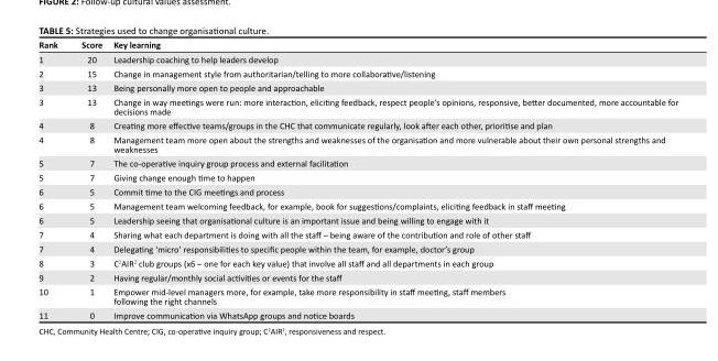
<table><thead><tr><td>Rank</td><td>Score</td><td>Key learning</td></tr></thead><tbody><tr><td>1</td><td>20</td><td>Leadership coaching to help leaders develop</td></tr><tr><td>2</td><td>15</td><td>Change in management style from authoritarian/telling to more collaborative/listening</td></tr><tr><td>3</td><td>13</td><td>Being personally more open to people and approachable</td></tr><tr><td>3</td><td>13</td><td>Change in way meetings were run: more interaction, eliciting feedback, respect people’s opinions, responsive, better documented, more accountable for decisions made</td></tr><tr><td>4</td><td>8</td><td>Creating more effective teams/groups in the CHC that communicate regularly, look after each other, prioritise and plan</td></tr><tr><td>4</td><td>8</td><td>Management team more open about the strengths and weaknesses of the organisation and more vulnerable about their own personal strengths and weaknesses</td></tr><tr><td>5</td><td>7</td><td>The co-operative inquiry group process and external facilitation</td></tr><tr><td>5</td><td>7</td><td>Giving change enough time to happen</td></tr><tr><td>6</td><td>5</td><td>Commit time to the CIG meetings and process</td></tr><tr><td>6</td><td>5</td><td>Management team welcoming feedback, for example, book for suggestions/complaints, eliciting feedback in staff meeting</td></tr><tr><td>6</td><td>5</td><td>Leadership seeing that organisational culture is an important issue and being willing to engage with it</td></tr><tr><td>7</td><td>4</td><td>Sharing what each department is doing with all the staff – being aware of the contribution and role of other staff</td></tr><tr><td>7</td><td>4</td><td>Delegating ‘micro’ responsibilities to specific people within the team, for example, doctor’s group</td></tr><tr><td>8</td><td>3</td><td>C<sup>2</sup>AIR<sup>2</sup> club groups (x6 – one for each key value) that involve all staff and all departments in each group</td></tr><tr><td>9</td><td>2</td><td>Having regular/monthly social activities or events for the staff</td></tr><tr><td>10</td><td>1</td><td>Empower mid-level managers more, for example, take more responsibility in staff meeting, staff members following the right channels</td></tr><tr><td>11</td><td>0</td><td>Improve communication via WhatsApp groups and notice boards</td></tr></tbody></table>